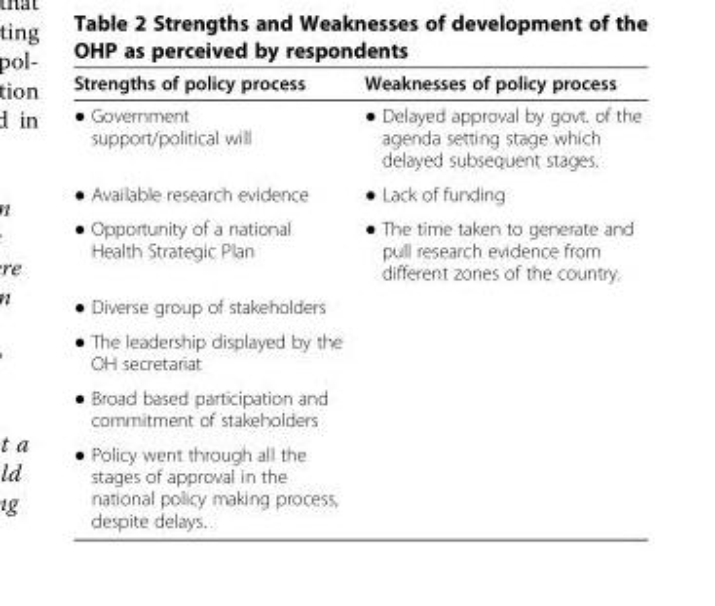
<table><thead><tr><td>Strengths of policy process</td><td>Weaknesses of policy process</td></tr></thead><tbody><tr><td>● Government support/political will</td><td>● Delayed approval by govt. of the agenda setting stage which delayed subsequent stages.</td></tr><tr><td>● Available research evidence</td><td>● Lack of funding</td></tr><tr><td>● Opportunity of a national Health Strategic Plan</td><td>● The time taken to generate and pull research evidence from different zones of the country.</td></tr><tr><td colspan="2">● Diverse group of stakeholders</td></tr><tr><td colspan="2">● The leadership displayed by the OH secretariat</td></tr><tr><td colspan="2">● Broad based participation and commitment of stakeholders</td></tr><tr><td>● Policy went through all the stages of approval in the national policy making process, despite delays.</td><td></td></tr></tbody></table>